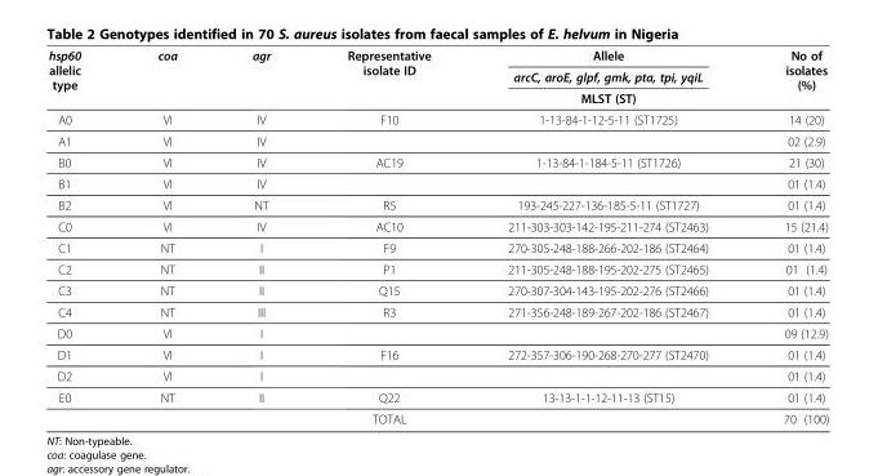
<table><thead><tr><td rowspan="3">hsp60 allelic type</td><td rowspan="3">coa</td><td rowspan="3">agr</td><td rowspan="3">Representative isolate ID</td><td rowspan="3">Allele arcC, aroE, glpf, gmk, pta, tpi, yqiL MLST (ST)</td><td rowspan="3">No of isolates (%)</td></tr><tr></tr><tr></tr></thead><tbody><tr><td>A0</td><td>VI</td><td>IV</td><td>F10</td><td>1-13-84-1-12-5-11 (ST1725)</td><td>14 (20)</td></tr><tr><td>A1</td><td>VI</td><td>IV</td><td></td><td></td><td>02 (2.9)</td></tr><tr><td>B0</td><td>VI</td><td>IV</td><td>AC19</td><td>1-13-84-1-184-5-11 (ST1726)</td><td>21 (30)</td></tr><tr><td>B1</td><td>VI</td><td>IV</td><td></td><td></td><td>01 (1.4)</td></tr><tr><td>B2</td><td>VI</td><td>NT</td><td>R5</td><td>193-245-227-136-185-5-11 (ST1727)</td><td>01 (1.4)</td></tr><tr><td>C0</td><td>VI</td><td>IV</td><td>AC10</td><td>211-303-303-142-195-211-274 (ST2463)</td><td>15 (21.4)</td></tr><tr><td>C1</td><td>NT</td><td>I</td><td>F9</td><td>270-305-248-188-266-202-186 (ST2464)</td><td>01 (1.4)</td></tr><tr><td>C2</td><td>NT</td><td>II</td><td>P1</td><td>211-305-248-188-195-202-275 (ST2465)</td><td>01 (1.4)</td></tr><tr><td>C3</td><td>NT</td><td>II</td><td>Q15</td><td>270-307-304-143-195-202-276 (ST2466)</td><td>01 (1.4)</td></tr><tr><td>C4</td><td>NT</td><td>III</td><td>R3</td><td>271-356-248-189-267-202-186 (ST2467)</td><td>01 (1.4)</td></tr><tr><td>D0</td><td>VI</td><td>I</td><td></td><td></td><td>09 (12.9)</td></tr><tr><td>D1</td><td>VI</td><td>I</td><td>F16</td><td>272-357-306-190-268-270-277 (ST2470)</td><td>01 (1.4)</td></tr><tr><td>D2</td><td>VI</td><td>I</td><td></td><td></td><td>01 (1.4)</td></tr><tr><td rowspan="2">E0</td><td>NT</td><td>II</td><td>Q22</td><td>13-13-1-1-12-11-13 (ST15)</td><td>01 (1.4)</td></tr><tr><td></td><td></td><td>TOTAL</td><td></td><td>70 (100)</td></tr></tbody></table>